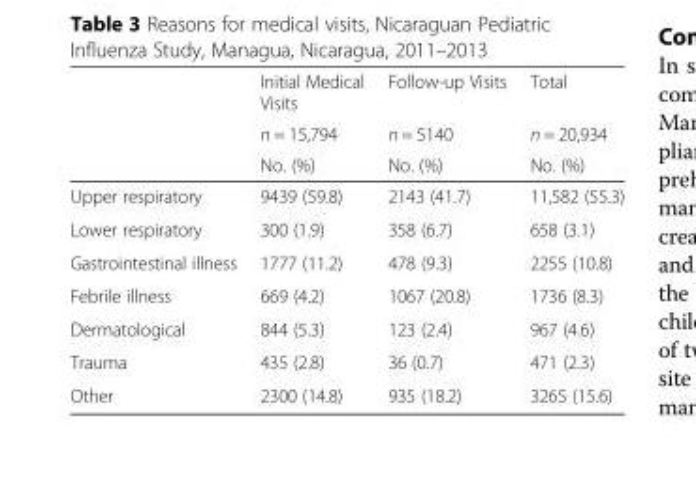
<table><thead><tr><td rowspan="3"></td><td rowspan="3">Initial Medical Visits n = 15,794 No. (%)</td><td rowspan="3">Follow-up Visits n = 5140 No. (%)</td><td rowspan="3">Total n = 20,934 No. (%)</td></tr><tr></tr><tr></tr></thead><tbody><tr><td>Upper respiratory</td><td>9439 (59.8)</td><td>2143 (41.7)</td><td>11,582 (55.3)</td></tr><tr><td>Lower respiratory</td><td>300 (1.9)</td><td>358 (6.7)</td><td>658 (3.1)</td></tr><tr><td>Gastrointestinal illness</td><td>1777 (11.2)</td><td>478 (9.3)</td><td>2255 (10.8)</td></tr><tr><td>Febrile illness</td><td>669 (4.2)</td><td>1067 (20.8)</td><td>1736 (8.3)</td></tr><tr><td>Dermatological</td><td>844 (5.3)</td><td>123 (2.4)</td><td>967 (4.6)</td></tr><tr><td>Trauma</td><td>435 (2.8)</td><td>36 (0.7)</td><td>471 (2.3)</td></tr><tr><td>Other</td><td>2300 (14.8)</td><td>935 (18.2)</td><td>3265 (15.6)</td></tr></tbody></table>